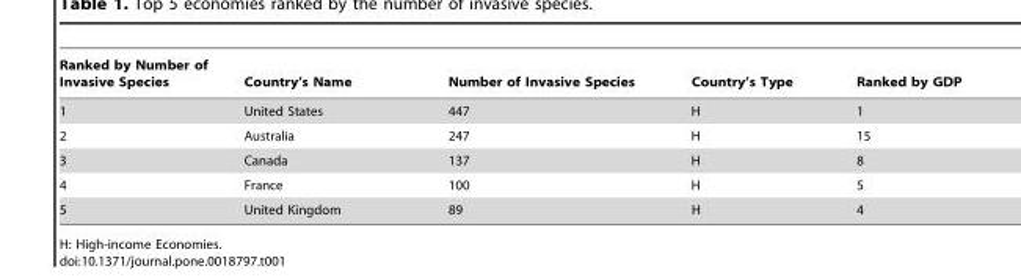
<table><thead><tr><td>Ranked by Number of Invasive Species</td><td>Country’s Name</td><td>Number of Invasive Species</td><td>Country’s Type</td><td>Ranked by GDP</td></tr></thead><tbody><tr><td>1</td><td>United States</td><td>447</td><td>H</td><td>1</td></tr><tr><td>2</td><td>Australia</td><td>247</td><td>H</td><td>15</td></tr><tr><td>3</td><td>Canada</td><td>137</td><td>H</td><td>8</td></tr><tr><td>4</td><td>France</td><td>100</td><td>H</td><td>5</td></tr><tr><td>5</td><td>United Kingdom</td><td>89</td><td>H</td><td>4</td></tr></tbody></table>